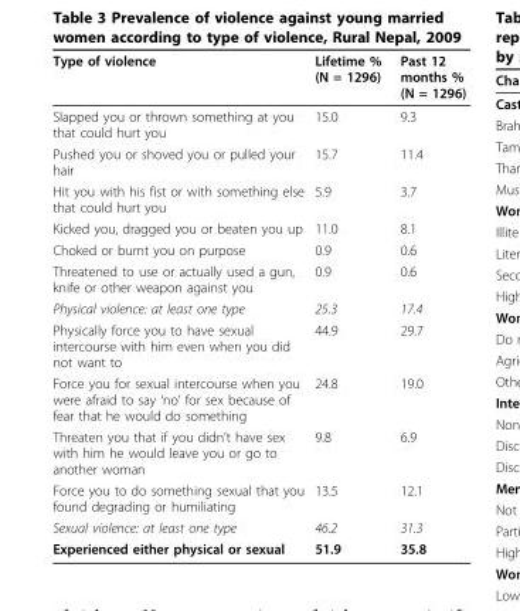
<table><thead><tr><td>Type of violence</td><td>Lifetime % (N = 1296)</td><td>Past 12 months % (N = 1296)</td></tr></thead><tbody><tr><td>Slapped you or thrown something at you that could hurt you</td><td>15.0</td><td>9.3</td></tr><tr><td>Pushed you or shoved you or pulled your hair</td><td>15.7</td><td>11.4</td></tr><tr><td>Hit you with his fist or with something else that could hurt you</td><td>5.9</td><td>3.7</td></tr><tr><td>Kicked you, dragged you or beaten you up</td><td>11.0</td><td>8.1</td></tr><tr><td>Choked or burnt you on purpose</td><td>0.9</td><td>0.6</td></tr><tr><td>Threatened to use or actually used a gun, knife or other weapon against you</td><td>0.9</td><td>0.6</td></tr><tr><td>Physical violence: at least one type</td><td>25.3</td><td>17.4</td></tr><tr><td>Physically force you to have sexual intercourse with him even when you did not want to</td><td>44.9</td><td>29.7</td></tr><tr><td>Force you for sexual intercourse when you were afraid to say ‘no’ for sex because of fear that he would do something</td><td>24.8</td><td>19.0</td></tr><tr><td>Threaten you that if you didn’t have sex with him he would leave you or go to another woman</td><td>9.8</td><td>6.9</td></tr><tr><td>Force you to do something sexual that you found degrading or humiliating</td><td>13.5</td><td>12.1</td></tr><tr><td>Sexual violence: at least one type</td><td>46.2</td><td>31.3</td></tr><tr><td>Experienced either physical or sexual</td><td>51.9</td><td>35.8</td></tr></tbody></table>